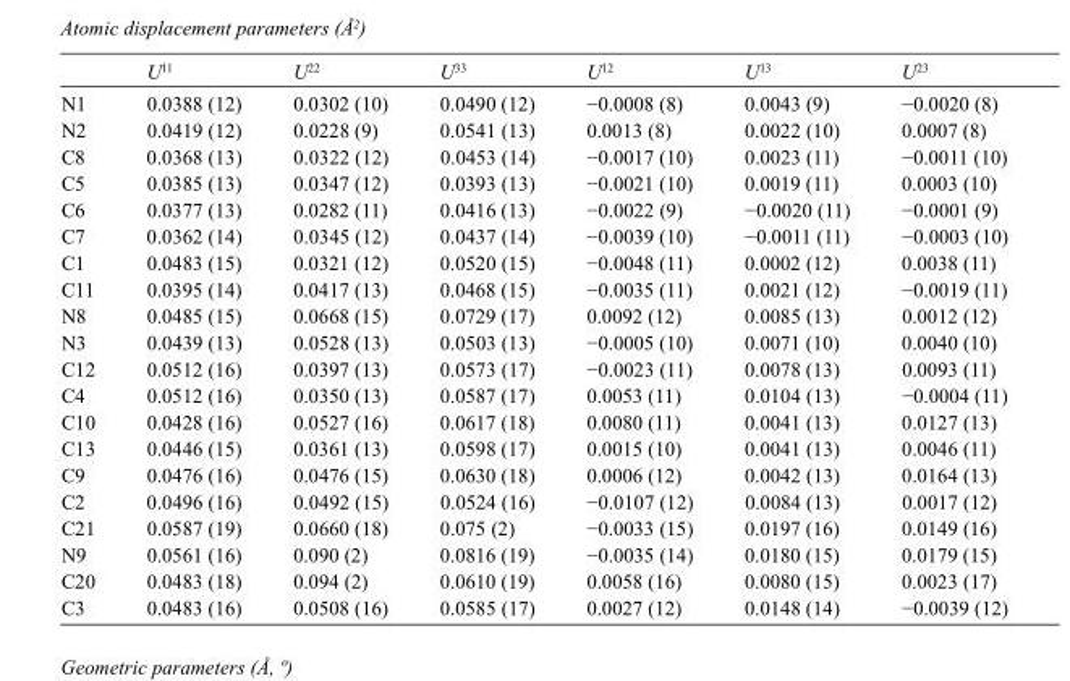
<table><thead><tr><td></td><td>U<sup>11</sup></td><td>U<sup>22</sup></td><td>U<sup>33</sup></td><td>U<sup>12</sup></td><td>U<sup>13</sup></td><td>U<sup>23</sup></td></tr></thead><tbody><tr><td>N1</td><td>0.0388 (12)</td><td>0.0302 (10)</td><td>0.0490 (12)</td><td>−0.0008 (8)</td><td>0.0043 (9)</td><td>−0.0020 (8)</td></tr><tr><td>N2</td><td>0.0419 (12)</td><td>0.0228 (9)</td><td>0.0541 (13)</td><td>0.0013 (8)</td><td>0.0022 (10)</td><td>0.0007 (8)</td></tr><tr><td>C8</td><td>0.0368 (13)</td><td>0.0322 (12)</td><td>0.0453 (14)</td><td>−0.0017 (10)</td><td>0.0023 (11)</td><td>−0.0011 (10)</td></tr><tr><td>C5</td><td>0.0385 (13)</td><td>0.0347 (12)</td><td>0.0393 (13)</td><td>−0.0021 (10)</td><td>0.0019 (11)</td><td>0.0003 (10)</td></tr><tr><td>C6</td><td>0.0377 (13)</td><td>0.0282 (11)</td><td>0.0416 (13)</td><td>−0.0022 (9)</td><td>−0.0020 (11)</td><td>−0.0001 (9)</td></tr><tr><td>C7</td><td>0.0362 (14)</td><td>0.0345 (12)</td><td>0.0437 (14)</td><td>−0.0039 (10)</td><td>−0.0011 (11)</td><td>−0.0003 (10)</td></tr><tr><td>C1</td><td>0.0483 (15)</td><td>0.0321 (12)</td><td>0.0520 (15)</td><td>−0.0048 (11)</td><td>0.0002 (12)</td><td>0.0038 (11)</td></tr><tr><td>C11</td><td>0.0395 (14)</td><td>0.0417 (13)</td><td>0.0468 (15)</td><td>−0.0035 (11)</td><td>0.0021 (12)</td><td>−0.0019 (11)</td></tr><tr><td>N8</td><td>0.0485 (15)</td><td>0.0668 (15)</td><td>0.0729 (17)</td><td>0.0092 (12)</td><td>0.0085 (13)</td><td>0.0012 (12)</td></tr><tr><td>N3</td><td>0.0439 (13)</td><td>0.0528 (13)</td><td>0.0503 (13)</td><td>−0.0005 (10)</td><td>0.0071 (10)</td><td>0.0040 (10)</td></tr><tr><td>C12</td><td>0.0512 (16)</td><td>0.0397 (13)</td><td>0.0573 (17)</td><td>−0.0023 (11)</td><td>0.0078 (13)</td><td>0.0093 (11)</td></tr><tr><td>C4</td><td>0.0512 (16)</td><td>0.0350 (13)</td><td>0.0587 (17)</td><td>0.0053 (11)</td><td>0.0104 (13)</td><td>−0.0004 (11)</td></tr><tr><td>C10</td><td>0.0428 (16)</td><td>0.0527 (16)</td><td>0.0617 (18)</td><td>0.0080 (11)</td><td>0.0041 (13)</td><td>0.0127 (13)</td></tr><tr><td>C13</td><td>0.0446 (15)</td><td>0.0361 (13)</td><td>0.0598 (17)</td><td>0.0015 (10)</td><td>0.0041 (13)</td><td>0.0046 (11)</td></tr><tr><td>C9</td><td>0.0476 (16)</td><td>0.0476 (15)</td><td>0.0630 (18)</td><td>0.0006 (12)</td><td>0.0042 (13)</td><td>0.0164 (13)</td></tr><tr><td>C2</td><td>0.0496 (16)</td><td>0.0492 (15)</td><td>0.0524 (16)</td><td>−0.0107 (12)</td><td>0.0084 (13)</td><td>0.0017 (12)</td></tr><tr><td>C21</td><td>0.0587 (19)</td><td>0.0660 (18)</td><td>0.075 (2)</td><td>−0.0033 (15)</td><td>0.0197 (16)</td><td>0.0149 (16)</td></tr><tr><td>N9</td><td>0.0561 (16)</td><td>0.090 (2)</td><td>0.0816 (19)</td><td>−0.0035 (14)</td><td>0.0180 (15)</td><td>0.0179 (15)</td></tr><tr><td>C20</td><td>0.0483 (18)</td><td>0.094 (2)</td><td>0.0610 (19)</td><td>0.0058 (16)</td><td>0.0080 (15)</td><td>0.0023 (17)</td></tr><tr><td>C3</td><td>0.0483 (16)</td><td>0.0508 (16)</td><td>0.0585 (17)</td><td>0.0027 (12)</td><td>0.0148 (14)</td><td>−0.0039 (12)</td></tr></tbody></table>